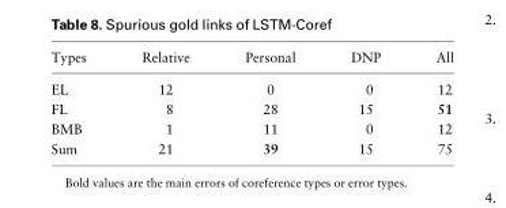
<table><thead><tr><td>Types</td><td>Relative</td><td>Personal</td><td>DNP</td><td>All</td></tr></thead><tbody><tr><td>EL</td><td>12</td><td>0</td><td>0</td><td>12</td></tr><tr><td>FL</td><td>8</td><td>28</td><td>15</td><td>51</td></tr><tr><td>BMB</td><td>1</td><td>11</td><td>0</td><td>12</td></tr><tr><td>Sum</td><td>21</td><td>39</td><td>15</td><td>75</td></tr></tbody></table>